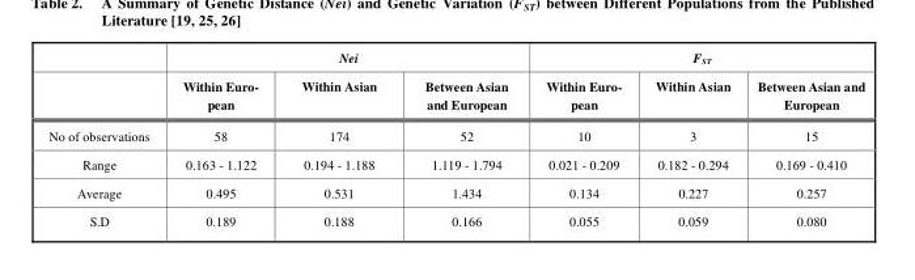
<table><thead><tr><td rowspan="2"></td><td colspan="3">Nei</td><td colspan="3">F<sub>ST</sub></td></tr><tr><td>Within Euro- pean</td><td>Within Asian</td><td>Between Asian and European</td><td>Within Euro- pean</td><td>Within Asian</td><td>Between Asian and European</td></tr></thead><tbody><tr><td>No of observations</td><td>58</td><td>174</td><td>52</td><td>10</td><td>3</td><td>15</td></tr><tr><td>Range</td><td>0.163 - 1.122</td><td>0.194 - 1.188</td><td>1.119 - 1.794</td><td>0.021 - 0.209</td><td>0.182 - 0.294</td><td>0.169 - 0.410</td></tr><tr><td>Average</td><td>0.495</td><td>0.531</td><td>1.434</td><td>0.134</td><td>0.227</td><td>0.257</td></tr><tr><td>S.D</td><td>0.189</td><td>0.188</td><td>0.166</td><td>0.055</td><td>0.059</td><td>0.080</td></tr></tbody></table>